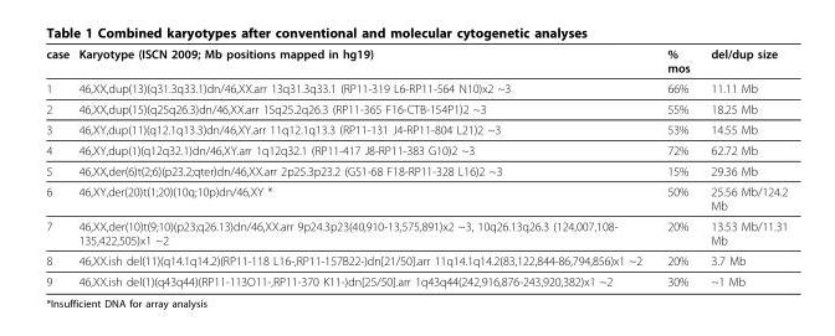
<table><thead><tr><td>case</td><td>Karyotype (ISCN 2009; Mb positions mapped in hg19)</td><td>% mos</td><td>del/dup size</td></tr></thead><tbody><tr><td>1</td><td>46,XX,dup(13)(q31.3q33.1)dn/46,XX.arr 13q31.3q33.1 (RP11-319 L6-RP11-564 N10)x2 ~3</td><td>66%</td><td>11.11 Mb</td></tr><tr><td>2</td><td>46,XX,dup(15)(q25q26.3)dn/46,XX.arr 15q25.2q26.3 (RP11-365 F16-CTB-154P1)2 ~3</td><td>55%</td><td>18.25 Mb</td></tr><tr><td>3</td><td>46,XY,dup(11)(q12.1q13.3)dn/46,XY.arr 11q12.1q13.3 (RP11-131 J4-RP11-804 L21)2 ~3</td><td>53%</td><td>14.55 Mb</td></tr><tr><td>4</td><td>46,XY,dup(1)(q12q32.1)dn/46,XY.arr 1q12q32.1 (RP11-417 J8-RP11-383 G10)2 ~3</td><td>72%</td><td>62.72 Mb</td></tr><tr><td>5</td><td>46,XX,der(6)t(2;6)(p23.2;qter)dn/46,XX.arr 2p25.3p23.2 (GS1-68 F18-RP11-328 L16)2 ~3</td><td>15%</td><td>29.36 Mb</td></tr><tr><td>6</td><td>46,XY,der(20)t(1;20)(10q;10p)dn/46,XY *</td><td>50%</td><td>25.56 Mb/124.2 Mb</td></tr><tr><td>7</td><td>46,XX,der(10)t(9;10)(p23;q26.13)dn/46,XX.arr 9p24.3p23(40,910-13,575,891)x2 ~3, 10q26.13q26.3 (124,007,108- 135,422,505)x1 ~2</td><td>20%</td><td>13.53 Mb/11.31 Mb</td></tr><tr><td>8</td><td>46,XX.ish del(11)(q14.1q14.2)(RP11-118 L16-,RP11-157B22-)dn[21/50].arr 11q14.1q14.2(83,122,844-86,794,856)x1 ~2</td><td>20%</td><td>3.7 Mb</td></tr><tr><td>9</td><td>46,XX.ish del(1)(q43q44)(RP11-113O11-,RP11-370 K11-)dn[25/50].arr 1q43q44(242,916,876-243,920,382)x1 ~2</td><td>30%</td><td>~1 Mb</td></tr></tbody></table>